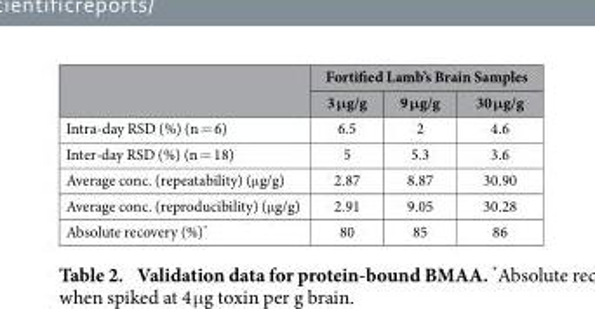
<table><thead><tr><td rowspan="2"></td><td colspan="3">Fortified Lamb’s Brain Samples</td></tr><tr><td>3 μg/g</td><td>9 μg/g</td><td>30 μg/g</td></tr></thead><tbody><tr><td>Intra-day RSD (%) (n = 6)</td><td>6.5</td><td>2</td><td>4.6</td></tr><tr><td>Inter-day RSD (%) (n = 18)</td><td>5</td><td>5.3</td><td>3.6</td></tr><tr><td>Average conc. (repeatability) (μ g/g)</td><td>2.87</td><td>8.87</td><td>30.90</td></tr><tr><td>Average conc. (reproducibility) (μ g/g)</td><td>2.91</td><td>9.05</td><td>30.28</td></tr><tr><td>Absolute recovery (%)*</td><td>80</td><td>85</td><td>86</td></tr></tbody></table>